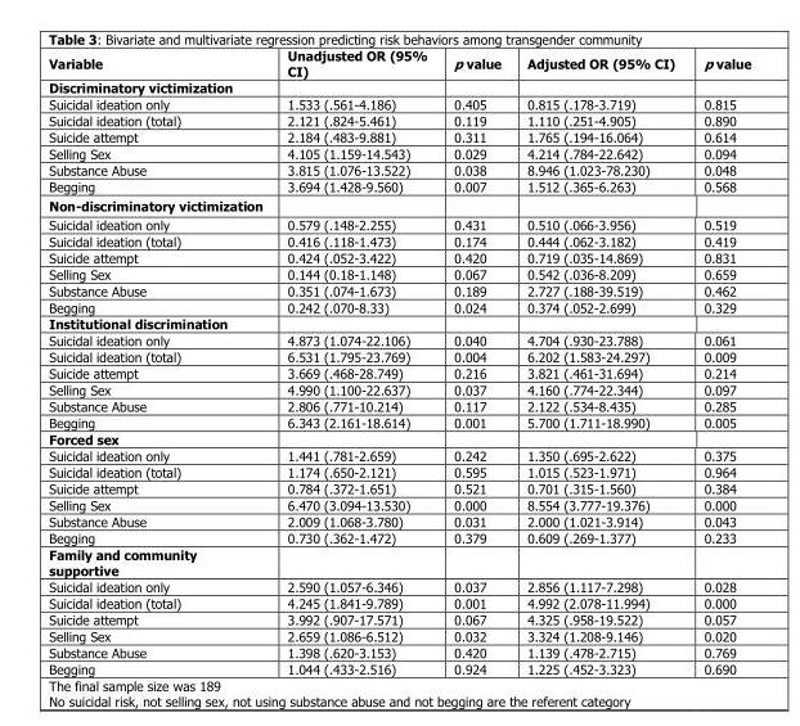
<table><thead><tr><td>Variable</td><td>Unadjusted OR (95% CI)</td><td>p value</td><td>Adjusted OR (95% CI)</td><td>p value</td></tr></thead><tbody><tr><td colspan="5">Discriminatory victimization</td></tr><tr><td>Suicidal ideation only</td><td>1.533 (.561-4.186)</td><td>0.405</td><td>0.815 (.178-3.719)</td><td>0.815</td></tr><tr><td>Suicidal ideation (total)</td><td>2.121 (.824-5.461)</td><td>0.119</td><td>1.110 (.251-4.905)</td><td>0.890</td></tr><tr><td>Suicide attempt</td><td>2.184 (.483-9.881)</td><td>0.311</td><td>1.765 (.194-16.064)</td><td>0.614</td></tr><tr><td>Selling Sex</td><td>4.105 (1.159-14.543)</td><td>0.029</td><td>4.214 (.784-22.642)</td><td>0.094</td></tr><tr><td>Substance Abuse</td><td>3.815 (1.076-13.522)</td><td>0.038</td><td>8.946 (1.023-78.230)</td><td>0.048</td></tr><tr><td>Begging</td><td>3.694 (1.428-9.560)</td><td>0.007</td><td>1.512 (.365-6.263)</td><td>0.568</td></tr><tr><td colspan="5">Non-discriminatory victimization</td></tr><tr><td>Suicidal ideation only</td><td>0.579 (.148-2.255)</td><td>0.431</td><td>0.510 (.066-3.956)</td><td>0.519</td></tr><tr><td>Suicidal ideation (total)</td><td>0.416 (.118-1.473)</td><td>0.174</td><td>0.444 (.062-3.182)</td><td>0.419</td></tr><tr><td>Suicide attempt</td><td>0.424 (.052-3.422)</td><td>0.420</td><td>0.719 (.035-14.869)</td><td>0.831</td></tr><tr><td>Selling Sex</td><td>0.144 (0.18-1.148)</td><td>0.067</td><td>0.542 (.036-8.209)</td><td>0.659</td></tr><tr><td>Substance Abuse</td><td>0.351 (.074-1.673)</td><td>0.189</td><td>2.727 (.188-39.519)</td><td>0.462</td></tr><tr><td>Begging</td><td>0.242 (.070-8.33)</td><td>0.024</td><td>0.374 (.052-2.699)</td><td>0.329</td></tr><tr><td colspan="5">Institutional discrimination</td></tr><tr><td>Suicidal ideation only</td><td>4.873 (1.074-22.106)</td><td>0.040</td><td>4.704 (.930-23.788)</td><td>0.061</td></tr><tr><td>Suicidal ideation (total)</td><td>6.531 (1.795-23.769)</td><td>0.004</td><td>6.202 (1.583-24.297)</td><td>0.009</td></tr><tr><td>Suicide attempt</td><td>3.669 (.468-28.749)</td><td>0.216</td><td>3.821 (.461-31.694)</td><td>0.214</td></tr><tr><td>Selling Sex</td><td>4.990 (1.100-22.637)</td><td>0.037</td><td>4.160 (.774-22.344)</td><td>0.097</td></tr><tr><td>Substance Abuse</td><td>2.806 (.771-10.214)</td><td>0.117</td><td>2.122 (.534-8.435)</td><td>0.285</td></tr><tr><td>Begging</td><td>6.343 (2.161-18.614)</td><td>0.001</td><td>5.700 (1.711-18.990)</td><td>0.005</td></tr><tr><td colspan="5">Forced sex</td></tr><tr><td>Suicidal ideation only</td><td>1.441 (.781-2.659)</td><td>0.242</td><td>1.350 (.695-2.622)</td><td>0.375</td></tr><tr><td>Suicidal ideation (total)</td><td>1.174 (.650-2.121)</td><td>0.595</td><td>1.015 (.523-1.971)</td><td>0.964</td></tr><tr><td>Suicide attempt</td><td>0.784 (.372-1.651)</td><td>0.521</td><td>0.701 (.315-1.560)</td><td>0.384</td></tr><tr><td>Selling Sex</td><td>6.470 (3.094-13.530)</td><td>0.000</td><td>8.554 (3.777-19.376)</td><td>0.000</td></tr><tr><td>Substance Abuse</td><td>2.009 (1.068-3.780)</td><td>0.031</td><td>2.000 (1.021-3.914)</td><td>0.043</td></tr><tr><td>Begging</td><td>0.730 (.362-1.472)</td><td>0.379</td><td>0.609 (.269-1.377)</td><td>0.233</td></tr><tr><td colspan="5">Family and community supportive</td></tr><tr><td>Suicidal ideation only</td><td>2.590 (1.057-6.346)</td><td>0.037</td><td>2.856 (1.117-7.298)</td><td>0.028</td></tr><tr><td>Suicidal ideation (total)</td><td>4.245 (1.841-9.789)</td><td>0.001</td><td>4.992 (2.078-11.994)</td><td>0.000</td></tr><tr><td>Suicide attempt</td><td>3.992 (.907-17.571)</td><td>0.067</td><td>4.325 (.958-19.522)</td><td>0.057</td></tr><tr><td>Selling Sex</td><td>2.659 (1.086-6.512)</td><td>0.032</td><td>3.324 (1.208-9.146)</td><td>0.020</td></tr><tr><td>Substance Abuse</td><td>1.398 (.620-3.153)</td><td>0.420</td><td>1.139 (.478-2.715)</td><td>0.769</td></tr><tr><td>Begging</td><td>1.044 (.433-2.516)</td><td>0.924</td><td>1.225 (.452-3.323)</td><td>0.690</td></tr></tbody></table>